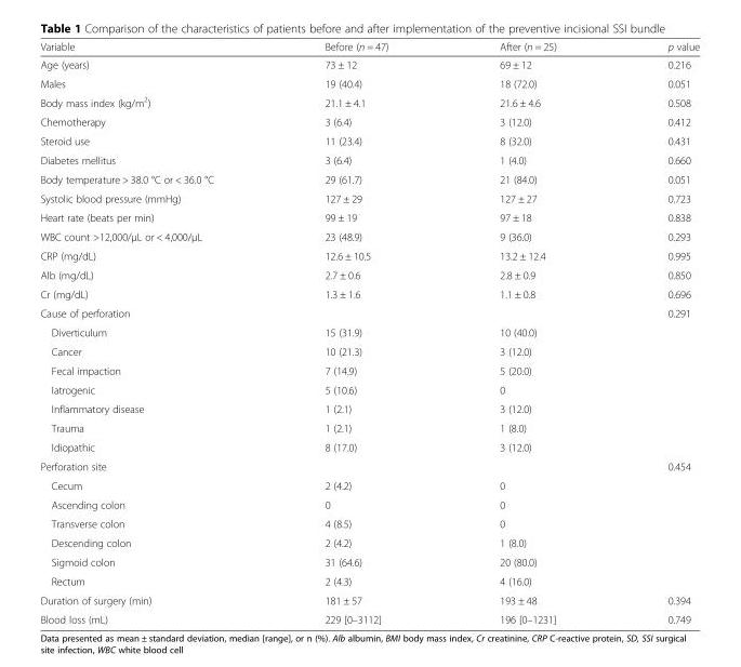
<table><thead><tr><td>Variable</td><td>Before (n = 47)</td><td>After (n = 25)</td><td>p value</td></tr></thead><tbody><tr><td>Age (years)</td><td>73 ± 12</td><td>69 ± 12</td><td>0.216</td></tr><tr><td>Males</td><td>19 (40.4)</td><td>18 (72.0)</td><td>0.051</td></tr><tr><td>Body mass index (kg/m<sup>2</sup>)</td><td>21.1 ± 4.1</td><td>21.6 ± 4.6</td><td>0.508</td></tr><tr><td>Chemotherapy</td><td>3 (6.4)</td><td>3 (12.0)</td><td>0.412</td></tr><tr><td>Steroid use</td><td>11 (23.4)</td><td>8 (32.0)</td><td>0.431</td></tr><tr><td>Diabetes mellitus</td><td>3 (6.4)</td><td>1 (4.0)</td><td>0.660</td></tr><tr><td>Body temperature &gt; 38.0 °C or &lt; 36.0 °C</td><td>29 (61.7)</td><td>21 (84.0)</td><td>0.051</td></tr><tr><td>Systolic blood pressure (mmHg)</td><td>127 ± 29</td><td>127 ± 27</td><td>0.723</td></tr><tr><td>Heart rate (beats per min)</td><td>99 ± 19</td><td>97 ± 18</td><td>0.838</td></tr><tr><td>WBC count &gt;12,000/μL or &lt; 4,000/μL</td><td>23 (48.9)</td><td>9 (36.0)</td><td>0.293</td></tr><tr><td>CRP (mg/dL)</td><td>12.6 ± 10.5</td><td>13.2 ± 12.4</td><td>0.995</td></tr><tr><td>Alb (mg/dL)</td><td>2.7 ± 0.6</td><td>2.8 ± 0.9</td><td>0.850</td></tr><tr><td>Cr (mg/dL)</td><td>1.3 ± 1.6</td><td>1.1 ± 0.8</td><td>0.696</td></tr><tr><td>Cause of perforation</td><td></td><td></td><td>0.291</td></tr><tr><td>Diverticulum</td><td>15 (31.9)</td><td>10 (40.0)</td><td></td></tr><tr><td>Cancer</td><td>10 (21.3)</td><td>3 (12.0)</td><td></td></tr><tr><td>Fecal impaction</td><td>7 (14.9)</td><td>5 (20.0)</td><td></td></tr><tr><td>Iatrogenic</td><td>5 (10.6)</td><td>0</td><td></td></tr><tr><td>Inflammatory disease</td><td>1 (2.1)</td><td>3 (12.0)</td><td></td></tr><tr><td>Trauma</td><td>1 (2.1)</td><td>1 (8.0)</td><td></td></tr><tr><td>Idiopathic</td><td>8 (17.0)</td><td>3 (12.0)</td><td></td></tr><tr><td>Perforation site</td><td></td><td></td><td>0.454</td></tr><tr><td>Cecum</td><td>2 (4.2)</td><td>0</td><td></td></tr><tr><td>Ascending colon</td><td>0</td><td>0</td><td></td></tr><tr><td>Transverse colon</td><td>4 (8.5)</td><td>0</td><td></td></tr><tr><td>Descending colon</td><td>2 (4.2)</td><td>1 (8.0)</td><td></td></tr><tr><td>Sigmoid colon</td><td>31 (64.6)</td><td>20 (80.0)</td><td></td></tr><tr><td>Rectum</td><td>2 (4.3)</td><td>4 (16.0)</td><td></td></tr><tr><td>Duration of surgery (min)</td><td>181 ± 57</td><td>193 ± 48</td><td>0.394</td></tr><tr><td>Blood loss (mL)</td><td>229 [0–3112]</td><td>196 [0–1231]</td><td>0.749</td></tr></tbody></table>